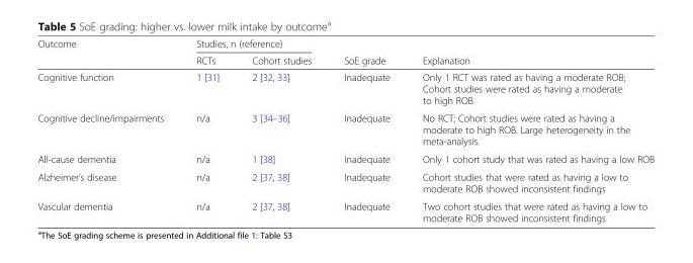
<table><thead><tr><td rowspan="2">Outcome</td><td colspan="2">Studies, n (reference)</td><td rowspan="2">SoE grade</td><td rowspan="2">Explanation</td></tr><tr><td>RCTs</td><td>Cohort studies</td></tr></thead><tbody><tr><td>Cognitive function</td><td>1 [31]</td><td>2 [32, 33]</td><td>Inadequate</td><td>Only 1 RCT was rated as having a moderate ROB; Cohort studies were rated as having a moderate to high ROB</td></tr><tr><td>Cognitive decline/impairments</td><td>n/a</td><td>3 [34–36]</td><td>Inadequate</td><td>No RCT; Cohort studies were rated as having a moderate to high ROB. Large heterogeneity in the meta-analysis.</td></tr><tr><td>All-cause dementia</td><td>n/a</td><td>1 [38]</td><td>Inadequate</td><td>Only 1 cohort study that was rated as having a low ROB</td></tr><tr><td>Alzheimer’s disease</td><td>n/a</td><td>2 [37, 38]</td><td>Inadequate</td><td>Cohort studies that were rated as having a low to moderate ROB showed inconsistent findings</td></tr><tr><td>Vascular dementia</td><td>n/a</td><td>2 [37, 38]</td><td>Inadequate</td><td>Two cohort studies that were rated as having a low to moderate ROB showed inconsistent findings</td></tr></tbody></table>